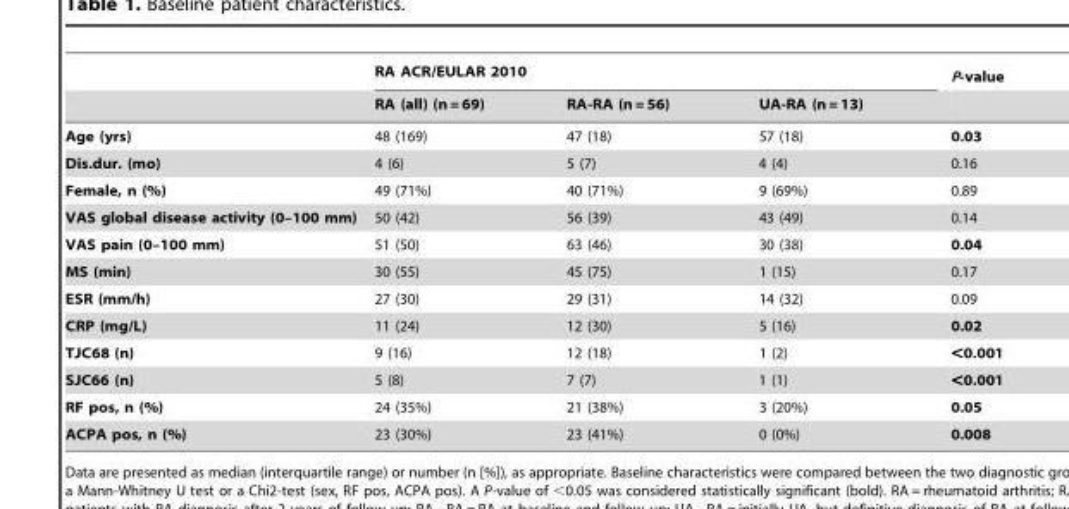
<table><thead><tr><td rowspan="2"></td><td colspan="3">RA ACR/EULAR 2010</td><td rowspan="2">P-value</td></tr><tr><td>RA (all) (n = 69)</td><td>RA-RA (n = 56)</td><td>UA-RA (n = 13)</td></tr></thead><tbody><tr><td>Age (yrs)</td><td>48 (169)</td><td>47 (18)</td><td>57 (18)</td><td>0.03</td></tr><tr><td>Dis.dur. (mo)</td><td>4 (6)</td><td>5 (7)</td><td>4 (4)</td><td>0.16</td></tr><tr><td>Female, n (%)</td><td>49 (71%)</td><td>40 (71%)</td><td>9 (69%)</td><td>0.89</td></tr><tr><td>VAS global disease activity (0–100 mm)</td><td>50 (42)</td><td>56 (39)</td><td>43 (49)</td><td>0.14</td></tr><tr><td>VAS pain (0–100 mm)</td><td>51 (50)</td><td>63 (46)</td><td>30 (38)</td><td>0.04</td></tr><tr><td>MS (min)</td><td>30 (55)</td><td>45 (75)</td><td>1 (15)</td><td>0.17</td></tr><tr><td>ESR (mm/h)</td><td>27 (30)</td><td>29 (31)</td><td>14 (32)</td><td>0.09</td></tr><tr><td>CRP (mg/L)</td><td>11 (24)</td><td>12 (30)</td><td>5 (16)</td><td>0.02</td></tr><tr><td>TJC68 (n)</td><td>9 (16)</td><td>12 (18)</td><td>1 (2)</td><td>&lt;0.001</td></tr><tr><td>SJC66 (n)</td><td>5 (8)</td><td>7 (7)</td><td>1 (1)</td><td>&lt;0.001</td></tr><tr><td>RF pos, n (%)</td><td>24 (35%)</td><td>21 (38%)</td><td>3 (20%)</td><td>0.05</td></tr><tr><td>ACPA pos, n (%)</td><td>23 (30%)</td><td>23 (41%)</td><td>0 (0%)</td><td>0.008</td></tr></tbody></table>